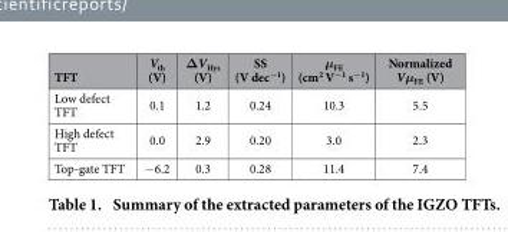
<table><thead><tr><td>TFT</td><td>V<sub>th</sub> (V)</td><td>ΔV<sub>Hys</sub> (V)</td><td>SS (V dec<sup>−1</sup>)</td><td>μ<sub>FE</sub> (cm<sup>2</sup> V<sup>−1</sup> s<sup>−1</sup>)</td><td>Normalized Vμ<sub>FE</sub> (V)</td></tr></thead><tbody><tr><td>Low defect TFT</td><td>0.1</td><td>1.2</td><td>0.24</td><td>10.3</td><td>5.5</td></tr><tr><td>High defect TFT</td><td>0.0</td><td>2.9</td><td>0.20</td><td>3.0</td><td>2.3</td></tr><tr><td>Top-gate TFT</td><td>− 6.2</td><td>0.3</td><td>0.28</td><td>11.4</td><td>7.4</td></tr></tbody></table>